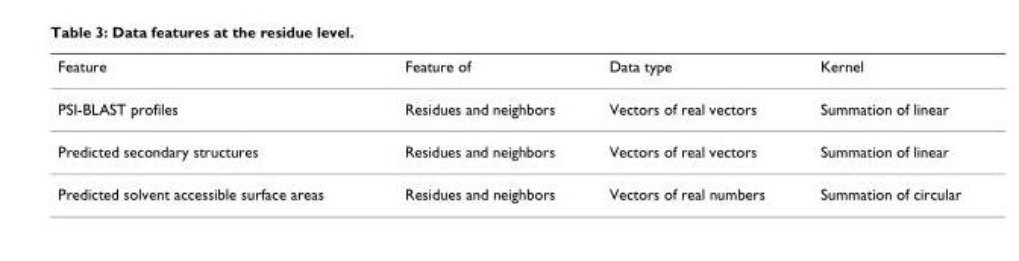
<table><thead><tr><td>Feature</td><td>Feature of</td><td>Data type</td><td>Kernel</td></tr></thead><tbody><tr><td>PSI-BLAST profiles</td><td>Residues and neighbors</td><td>Vectors of real vectors</td><td>Summation of linear</td></tr><tr><td>Predicted secondary structures</td><td>Residues and neighbors</td><td>Vectors of real vectors</td><td>Summation of linear</td></tr><tr><td>Predicted solvent accessible surface areas</td><td>Residues and neighbors</td><td>Vectors of real numbers</td><td>Summation of circular</td></tr></tbody></table>